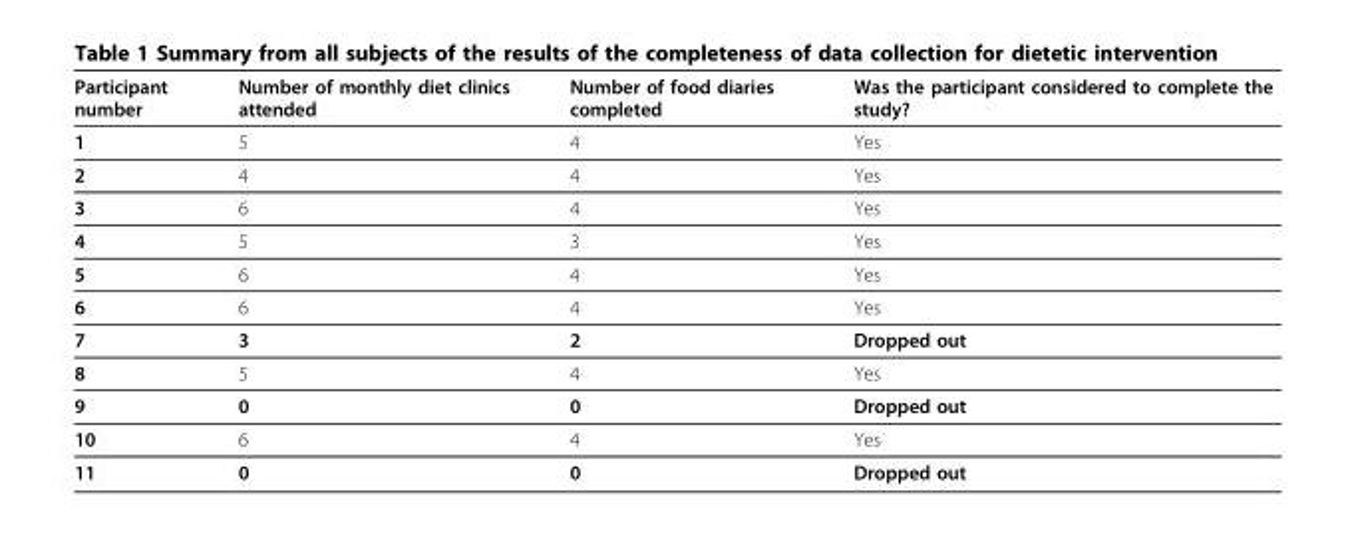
<table><thead><tr><td>Participant number</td><td>Number of monthly diet clinics attended</td><td>Number of food diaries completed</td><td>Was the participant considered to complete the study?</td></tr></thead><tbody><tr><td>1</td><td>5</td><td>4</td><td>Yes</td></tr><tr><td>2</td><td>4</td><td>4</td><td>Yes</td></tr><tr><td>3</td><td>6</td><td>4</td><td>Yes</td></tr><tr><td>4</td><td>5</td><td>3</td><td>Yes</td></tr><tr><td>5</td><td>6</td><td>4</td><td>Yes</td></tr><tr><td>6</td><td>6</td><td>4</td><td>Yes</td></tr><tr><td>7</td><td>3</td><td>2</td><td>Dropped out</td></tr><tr><td>8</td><td>5</td><td>4</td><td>Yes</td></tr><tr><td>9</td><td>0</td><td>0</td><td>Dropped out</td></tr><tr><td>10</td><td>6</td><td>4</td><td>Yes</td></tr><tr><td>11</td><td>0</td><td>0</td><td>Dropped out</td></tr></tbody></table>